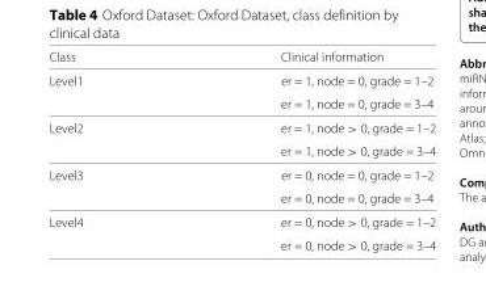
<table><thead><tr><td>Class</td><td>Clinical information</td></tr></thead><tbody><tr><td rowspan="2">Level1</td><td>er = 1, node = 0, grade = 1–2</td></tr><tr><td>er = 1, node = 0, grade = 3–4</td></tr><tr><td rowspan="2">Level2</td><td>er = 1, node &gt; 0, grade = 1–2</td></tr><tr><td>er = 1, node &gt; 0, grade = 3–4</td></tr><tr><td rowspan="2">Level3</td><td>er = 0, node = 0, grade = 1–2</td></tr><tr><td>er = 0, node = 0, grade = 3–4</td></tr><tr><td rowspan="2">Level4</td><td>er = 0, node &gt; 0, grade = 1–2</td></tr><tr><td>er = 0, node &gt; 0, grade = 3–4</td></tr></tbody></table>